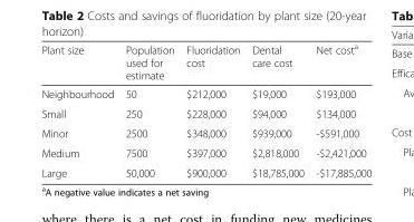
<table><thead><tr><td>Plant size</td><td>Population used for estimate</td><td>Fluoridation cost</td><td>Dental care cost</td><td>Net cost<sup>a</sup></td></tr></thead><tbody><tr><td>Neighbourhood</td><td>50</td><td>$212,000</td><td>$19,000</td><td>$193,000</td></tr><tr><td>Small</td><td>250</td><td>$228,000</td><td>$94,000</td><td>$134,000</td></tr><tr><td>Minor</td><td>2500</td><td>$348,000</td><td>$939,000</td><td>-$591,000</td></tr><tr><td>Medium</td><td>7500</td><td>$397,000</td><td>$2,818,000</td><td>-$2,421,000</td></tr><tr><td>Large</td><td>50,000</td><td>$900,000</td><td>$18,785,000</td><td>-$17,885,000</td></tr></tbody></table>